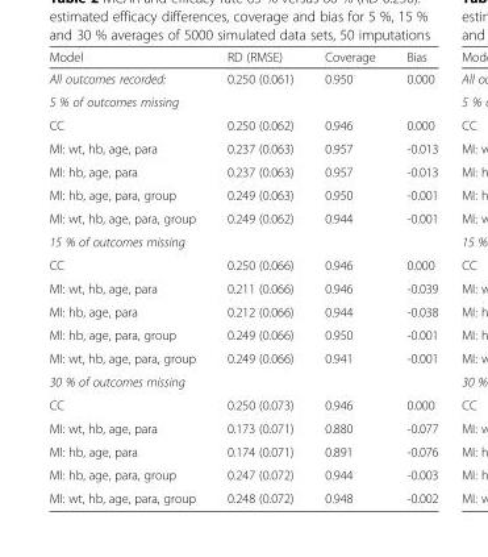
<table><thead><tr><td>Model</td><td>RD (RMSE)</td><td>Coverage</td><td>Bias</td></tr></thead><tbody><tr><td>All outcomes recorded:</td><td>0.250 (0.061)</td><td>0.950</td><td>0.000</td></tr><tr><td colspan="4">5 % of outcomes missing</td></tr><tr><td>CC</td><td>0.250 (0.062)</td><td>0.946</td><td>0.000</td></tr><tr><td>MI: wt, hb, age, para</td><td>0.237 (0.063)</td><td>0.957</td><td>-0.013</td></tr><tr><td>MI: hb, age, para</td><td>0.237 (0.063)</td><td>0.957</td><td>-0.013</td></tr><tr><td>MI: hb, age, para, group</td><td>0.249 (0.063)</td><td>0.950</td><td>-0.001</td></tr><tr><td>MI: wt, hb, age, para, group</td><td>0.249 (0.062)</td><td>0.944</td><td>-0.001</td></tr><tr><td colspan="4">15 % of outcomes missing</td></tr><tr><td>CC</td><td>0.250 (0.066)</td><td>0.946</td><td>0.000</td></tr><tr><td>MI: wt, hb, age, para</td><td>0.211 (0.066)</td><td>0.946</td><td>-0.039</td></tr><tr><td>MI: hb, age, para</td><td>0.212 (0.066)</td><td>0.944</td><td>-0.038</td></tr><tr><td>MI: hb, age, para, group</td><td>0.249 (0.066)</td><td>0.950</td><td>-0.001</td></tr><tr><td>MI: wt, hb, age, para, group</td><td>0.249 (0.066)</td><td>0.941</td><td>-0.001</td></tr><tr><td colspan="4">30 % of outcomes missing</td></tr><tr><td>CC</td><td>0.250 (0.073)</td><td>0.946</td><td>0.000</td></tr><tr><td>MI: wt, hb, age, para</td><td>0.173 (0.071)</td><td>0.880</td><td>-0.077</td></tr><tr><td>MI: hb, age, para</td><td>0.174 (0.071)</td><td>0.891</td><td>-0.076</td></tr><tr><td>MI: hb, age, para, group</td><td>0.247 (0.072)</td><td>0.944</td><td>-0.003</td></tr><tr><td>MI: wt, hb, age, para, group</td><td>0.248 (0.072)</td><td>0.948</td><td>-0.002</td></tr></tbody></table>